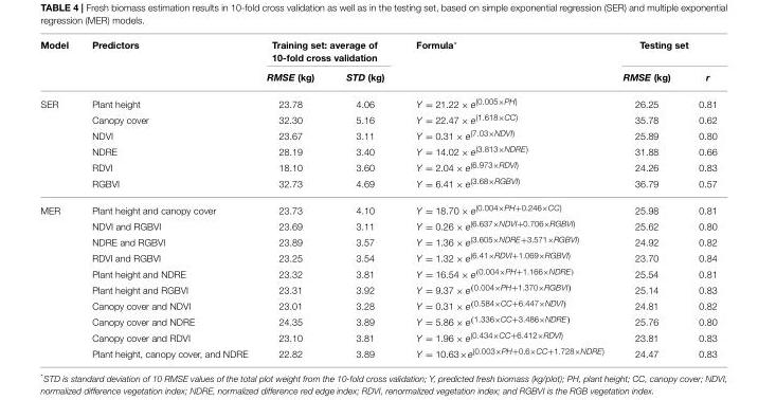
<table><thead><tr><td rowspan="2">Model</td><td rowspan="2">Predictors</td><td colspan="2">Training set: average of 10-fold cross validation</td><td rowspan="2">Formula*</td><td colspan="2">Testing set</td></tr><tr><td>RMSE (kg)</td><td>STD (kg)</td><td>RMSE (kg)</td><td>r</td></tr></thead><tbody><tr><td rowspan="6">SER</td><td>Plant height</td><td>23.78</td><td>4.06</td><td>Y = 21.22 × e<sup>(0.005×PH)</sup></td><td>26.25</td><td>0.81</td></tr><tr><td>Canopy cover</td><td>32.30</td><td>5.16</td><td>Y = 22.47 × e<sup>(1.618×CC)</sup></td><td>35.78</td><td>0.62</td></tr><tr><td>NDVI</td><td>23.67</td><td>3.11</td><td>Y = 0.31 × e<sup>(7.03×NDVI)</sup></td><td>25.89</td><td>0.80</td></tr><tr><td>NDRE</td><td>28.19</td><td>3.40</td><td>Y = 14.02 × e<sup>(3.813×NDRE)</sup></td><td>31.88</td><td>0.66</td></tr><tr><td>RDVI</td><td>18.10</td><td>3.60</td><td>Y = 2.04 × e<sup>(6.973×RDVI)</sup></td><td>24.26</td><td>0.83</td></tr><tr><td>RGBVI</td><td>32.73</td><td>4.69</td><td>Y = 6.41 × e<sup>(3.68×RGBVI)</sup></td><td>36.79</td><td>0.57</td></tr><tr><td rowspan="10">MER</td><td>Plant height and canopy cover</td><td>23.73</td><td>4.10</td><td>Y = 18.70 × e<sup>(0.004×PH+0.246×CC)</sup></td><td>25.98</td><td>0.81</td></tr><tr><td>NDVI and RGBVI</td><td>23.69</td><td>3.11</td><td>Y = 0.26 × e<sup>(6.637×NDVI+0.706×RGBVI)</sup></td><td>25.62</td><td>0.80</td></tr><tr><td>NDRE and RGBVI</td><td>23.89</td><td>3.57</td><td>Y = 1.36 × e<sup>(3.605×NDRE+3.571×RGBVI)</sup></td><td>24.92</td><td>0.82</td></tr><tr><td>RDVI and RGBVI</td><td>23.25</td><td>3.54</td><td>Y = 1.32 × e<sup>(6.41×RDVI+1.069×RGBVI)</sup></td><td>23.70</td><td>0.84</td></tr><tr><td>Plant height and NDRE</td><td>23.32</td><td>3.81</td><td>Y = 16.54 × e<sup>(0.004×PH+1.166×NDRE)</sup></td><td>25.54</td><td>0.81</td></tr><tr><td>Plant height and RGBVI</td><td>23.31</td><td>3.92</td><td>Y = 9.37 × e<sup>(0.004×PH+1.370×RGBVI)</sup></td><td>25.14</td><td>0.83</td></tr><tr><td>Canopy cover and NDVI</td><td>23.01</td><td>3.28</td><td>Y = 0.31 × e<sup>(0.584×CC+6.447×NDVI)</sup></td><td>24.81</td><td>0.82</td></tr><tr><td>Canopy cover and NDRE</td><td>24.35</td><td>3.89</td><td>Y = 5.86 × e<sup>(1.336×CC+3.486×NDRE)</sup></td><td>25.76</td><td>0.80</td></tr><tr><td>Canopy cover and RDVI</td><td>23.10</td><td>3.81</td><td>Y = 1.96 × e<sup>(0.434×CC+6.412×RDVI)</sup></td><td>23.81</td><td>0.83</td></tr><tr><td>Plant height, canopy cover, and NDRE</td><td>22.82</td><td>3.89</td><td>Y = 10.63×e<sup>(0.003×PH+0.6×CC+1.728×NDRE)</sup></td><td>24.47</td><td>0.83</td></tr></tbody></table>